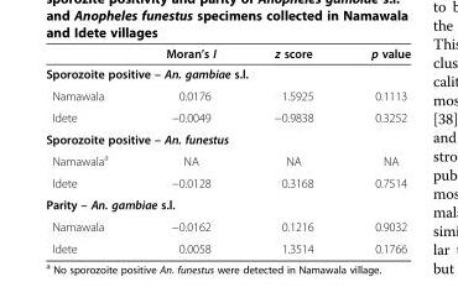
<table><thead><tr><td></td><td>Moran’s I</td><td>z score</td><td>p value</td></tr></thead><tbody><tr><td colspan="4">Sporozoite positive – An. gambiae s.l.</td></tr><tr><td>Namawala</td><td>0.0176</td><td>1.5925</td><td>0.1113</td></tr><tr><td>Idete</td><td>−0.0049</td><td>−0.9838</td><td>0.3252</td></tr><tr><td colspan="4">Sporozoite positive – An. funestus</td></tr><tr><td>Namawala<sup>a</sup></td><td>NA</td><td>NA</td><td>NA</td></tr><tr><td>Idete</td><td>−0.0128</td><td>0.3168</td><td>0.7514</td></tr><tr><td colspan="4">Parity – An. gambiae s.l.</td></tr><tr><td>Namawala</td><td>−0.0162</td><td>0.1216</td><td>0.9032</td></tr><tr><td>Idete</td><td>0.0058</td><td>1.3514</td><td>0.1766</td></tr></tbody></table>